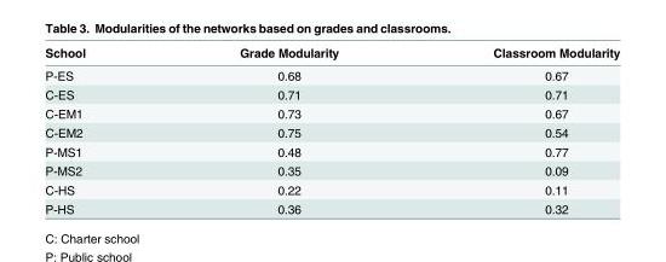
<table><thead><tr><td>School</td><td>Grade Modularity</td><td>Classroom Modularity</td></tr></thead><tbody><tr><td>P-ES</td><td>0.68</td><td>0.67</td></tr><tr><td>C-ES</td><td>0.71</td><td>0.71</td></tr><tr><td>C-EM1</td><td>0.73</td><td>0.67</td></tr><tr><td>C-EM2</td><td>0.75</td><td>0.54</td></tr><tr><td>P-MS1</td><td>0.48</td><td>0.77</td></tr><tr><td>P-MS2</td><td>0.35</td><td>0.09</td></tr><tr><td>C-HS</td><td>0.22</td><td>0.11</td></tr><tr><td>P-HS</td><td>0.36</td><td>0.32</td></tr></tbody></table>